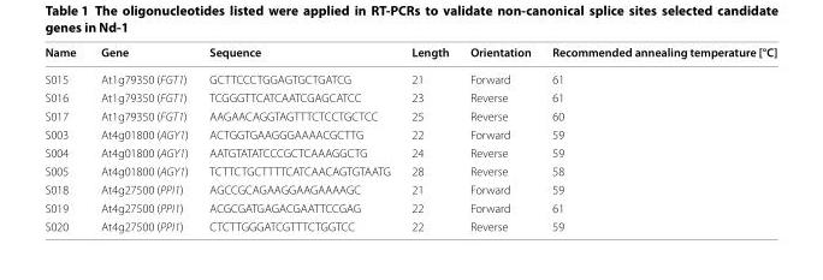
<table><thead><tr><td>Name</td><td>Gene</td><td>Sequence</td><td>Length</td><td>Orientation</td><td>Recommended annealing temperature [°C]</td></tr></thead><tbody><tr><td>S015</td><td>At1g79350 (FGT1)</td><td>GCTTCCCTGGAGTGCTGATCG</td><td>21</td><td>Forward</td><td>61</td></tr><tr><td>S016</td><td>At1g79350 (FGT1)</td><td>TCGGGTTCATCAATCGAGCATCC</td><td>23</td><td>Reverse</td><td>61</td></tr><tr><td>S017</td><td>At1g79350 (FGT1)</td><td>AAGAACAGGTAGTTTCTCCTGCTCC</td><td>25</td><td>Reverse</td><td>60</td></tr><tr><td>S003</td><td>At4g01800 (AGY1)</td><td>ACTGGTGAAGGGAAAACGCTTG</td><td>22</td><td>Forward</td><td>59</td></tr><tr><td>S004</td><td>At4g01800 (AGY1)</td><td>AATGTATATCCCGCTCAAAGGCTG</td><td>24</td><td>Reverse</td><td>59</td></tr><tr><td>S005</td><td>At4g01800 (AGY1)</td><td>TCTTCTGCTTTTCATCAACAGTGTAATG</td><td>28</td><td>Reverse</td><td>58</td></tr><tr><td>S018</td><td>At4g27500 (PPI1)</td><td>AGCCGCAGAAGGAAGAAAAGC</td><td>21</td><td>Forward</td><td>59</td></tr><tr><td>S019</td><td>At4g27500 (PPI1)</td><td>ACGCGATGAGACGAATTCCGAG</td><td>22</td><td>Forward</td><td>61</td></tr><tr><td>S020</td><td>At4g27500 (PPI1)</td><td>CTCTTGGGATCGTTTCTGGTCC</td><td>22</td><td>Reverse</td><td>59</td></tr></tbody></table>